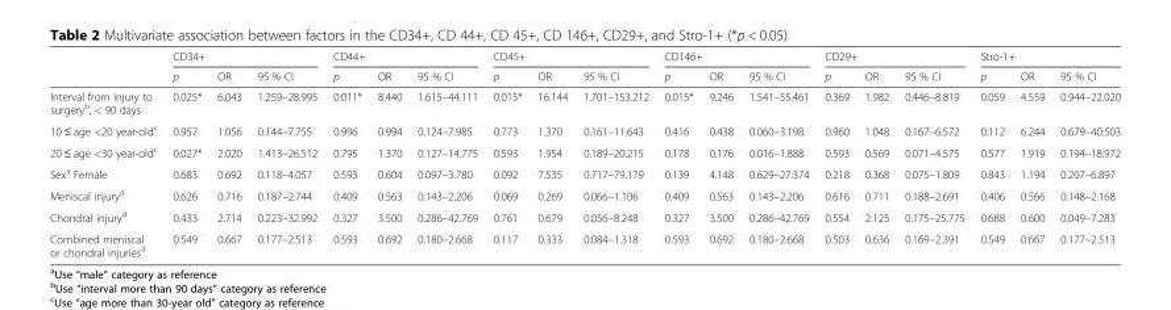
<table><thead><tr><td rowspan="2"></td><td colspan="3">CD34+</td><td colspan="3">CD44+</td><td colspan="3">CD45+</td><td colspan="3">CD146+</td><td colspan="3">CD29+</td><td colspan="3">Stro-1+</td></tr><tr><td>p</td><td>OR</td><td>95 % CI</td><td>p</td><td>OR</td><td>95 % CI</td><td>p</td><td>OR</td><td>95 % CI</td><td>p</td><td>OR</td><td>95 % CI</td><td>p</td><td>OR</td><td>95 % CI</td><td>p</td><td>OR</td><td>95 % CI</td></tr></thead><tbody><tr><td>Interval from injury to surgery<sup>b</sup>, &lt; 90 days</td><td>0.025*</td><td>6.043</td><td>1.259–28.995</td><td>0.011*</td><td>8.440</td><td>1.615–44.111</td><td>0.015*</td><td>16.144</td><td>1.701–153.212</td><td>0.015*</td><td>9.246</td><td>1.541–55.461</td><td>0.369</td><td>1.982</td><td>0.446–8.819</td><td>0.059</td><td>4.559</td><td>0.944–22.020</td></tr><tr><td>10 ≤ age &lt;20 year-old<sup>c</sup></td><td>0.957</td><td>1.056</td><td>0.144–7.755</td><td>0.996</td><td>0.994</td><td>0.124–7.985</td><td>0.773</td><td>1.370</td><td>0.161–11.643</td><td>0.416</td><td>0.438</td><td>0.060–3.198</td><td>0.960</td><td>1.048</td><td>0.167–6.572</td><td>0.112</td><td>6.244</td><td>0.679–40.503</td></tr><tr><td>20 ≤ age &lt;30 year-old<sup>c</sup></td><td>0.027*</td><td>2.020</td><td>1.413–26.512</td><td>0.795</td><td>1.370</td><td>0.127–14.775</td><td>0.593</td><td>1.954</td><td>0.189–20.215</td><td>0.178</td><td>0.176</td><td>0.016–1.888</td><td>0.593</td><td>0.569</td><td>0.071–4.575</td><td>0.577</td><td>1.919</td><td>0.194–18.972</td></tr><tr><td>Sex<sup>a</sup> Female</td><td>0.683</td><td>0.692</td><td>0.118–4.057</td><td>0.593</td><td>0.604</td><td>0.097–3.780</td><td>0.092</td><td>7.535</td><td>0.717–79.179</td><td>0.139</td><td>4.148</td><td>0.629–27.374</td><td>0.218</td><td>0.368</td><td>0.075–1.809</td><td>0.843</td><td>1.194</td><td>0.207–6.897</td></tr><tr><td>Meniscal injury<sup>d</sup></td><td>0.626</td><td>0.716</td><td>0.187–2.744</td><td>0.409</td><td>0.563</td><td>0.143–2.206</td><td>0.069</td><td>0.269</td><td>0.066–1.106</td><td>0.409</td><td>0.563</td><td>0.143–2.206</td><td>0.616</td><td>0.711</td><td>0.188–2.691</td><td>0.406</td><td>0.566</td><td>0.148–2.168</td></tr><tr><td>Chondral injury<sup>d</sup></td><td>0.433</td><td>2.714</td><td>0.223–32.992</td><td>0.327</td><td>3.500</td><td>0.286–42.769</td><td>0.761</td><td>0.679</td><td>0.056–8.248</td><td>0.327</td><td>3.500</td><td>0.286–42.769</td><td>0.554</td><td>2.125</td><td>0.175–25.775</td><td>0.688</td><td>0.600</td><td>0.049–7.283</td></tr><tr><td>Combined meniscal or chondral injuries<sup>d</sup></td><td>0.549</td><td>0.667</td><td>0.177–2.513</td><td>0.593</td><td>0.692</td><td>0.180–2.668</td><td>0.117</td><td>0.333</td><td>0.084–1.318</td><td>0.593</td><td>0.692</td><td>0.180–2.668</td><td>0.503</td><td>0.636</td><td>0.169–2.391</td><td>0.549</td><td>0.667</td><td>0.177–2.513</td></tr></tbody></table>